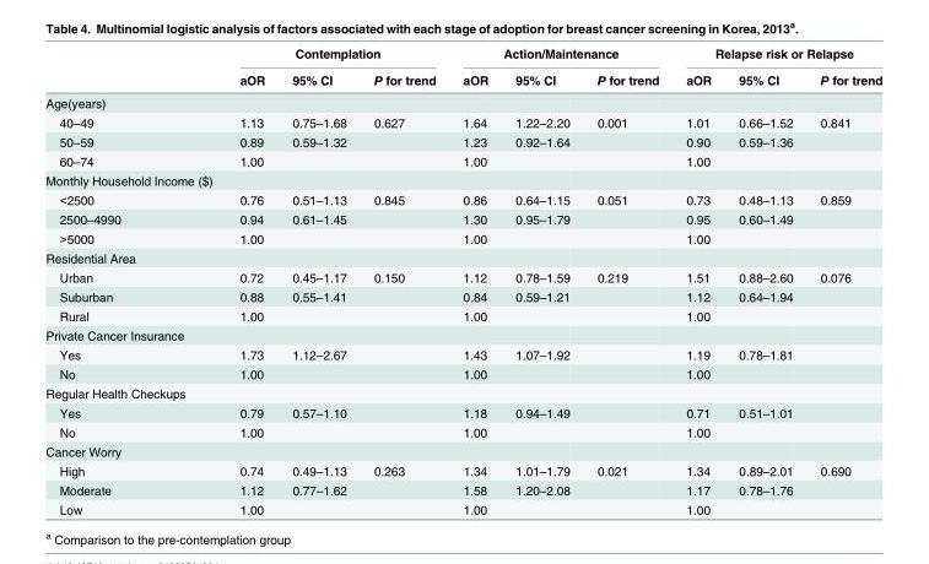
<table><thead><tr><td rowspan="2"></td><td colspan="3">Contemplation</td><td colspan="3">Action/Maintenance</td><td colspan="3">Relapse risk or Relapse</td></tr><tr><td>aOR</td><td>95% CI</td><td>P for trend</td><td>aOR</td><td>95% CI</td><td>P for trend</td><td>aOR</td><td>95% CI</td><td>P for trend</td></tr></thead><tbody><tr><td colspan="10">Age(years)</td></tr><tr><td>40–49</td><td>1.13</td><td>0.75–1.68</td><td>0.627</td><td>1.64</td><td>1.22–2.20</td><td>0.001</td><td>1.01</td><td>0.66–1.52</td><td>0.841</td></tr><tr><td>50–59</td><td>0.89</td><td>0.59–1.32</td><td></td><td>1.23</td><td>0.92–1.64</td><td></td><td>0.90</td><td>0.59–1.36</td><td></td></tr><tr><td>60–74</td><td>1.00</td><td></td><td></td><td>1.00</td><td></td><td></td><td>1.00</td><td></td><td></td></tr><tr><td colspan="10">Monthly Household Income ($)</td></tr><tr><td>&lt;2500</td><td>0.76</td><td>0.51–1.13</td><td>0.845</td><td>0.86</td><td>0.64–1.15</td><td>0.051</td><td>0.73</td><td>0.48–1.13</td><td>0.859</td></tr><tr><td>2500–4990</td><td>0.94</td><td>0.61–1.45</td><td></td><td>1.30</td><td>0.95–1.79</td><td></td><td>0.95</td><td>0.60–1.49</td><td></td></tr><tr><td>&gt;5000</td><td>1.00</td><td></td><td></td><td>1.00</td><td></td><td></td><td>1.00</td><td></td><td></td></tr><tr><td colspan="10">Residential Area</td></tr><tr><td>Urban</td><td>0.72</td><td>0.45–1.17</td><td>0.150</td><td>1.12</td><td>0.78–1.59</td><td>0.219</td><td>1.51</td><td>0.88–2.60</td><td>0.076</td></tr><tr><td>Suburban</td><td>0.88</td><td>0.55–1.41</td><td></td><td>0.84</td><td>0.59–1.21</td><td></td><td>1.12</td><td>0.64–1.94</td><td></td></tr><tr><td>Rural</td><td>1.00</td><td></td><td></td><td>1.00</td><td></td><td></td><td>1.00</td><td></td><td></td></tr><tr><td colspan="10">Private Cancer Insurance</td></tr><tr><td>Yes</td><td>1.73</td><td>1.12–2.67</td><td></td><td>1.43</td><td>1.07–1.92</td><td></td><td>1.19</td><td>0.78–1.81</td><td></td></tr><tr><td>No</td><td>1.00</td><td></td><td></td><td>1.00</td><td></td><td></td><td>1.00</td><td></td><td></td></tr><tr><td colspan="10">Regular Health Checkups</td></tr><tr><td>Yes</td><td>0.79</td><td>0.57–1.10</td><td></td><td>1.18</td><td>0.94–1.49</td><td></td><td>0.71</td><td>0.51–1.01</td><td></td></tr><tr><td>No</td><td>1.00</td><td></td><td></td><td>1.00</td><td></td><td></td><td>1.00</td><td></td><td></td></tr><tr><td colspan="10">Cancer Worry</td></tr><tr><td>High</td><td>0.74</td><td>0.49–1.13</td><td>0.263</td><td>1.34</td><td>1.01–1.79</td><td>0.021</td><td>1.34</td><td>0.89–2.01</td><td>0.690</td></tr><tr><td>Moderate</td><td>1.12</td><td>0.77–1.62</td><td></td><td>1.58</td><td>1.20–2.08</td><td></td><td>1.17</td><td>0.78–1.76</td><td></td></tr><tr><td>Low</td><td>1.00</td><td></td><td></td><td>1.00</td><td></td><td></td><td>1.00</td><td></td><td></td></tr></tbody></table>